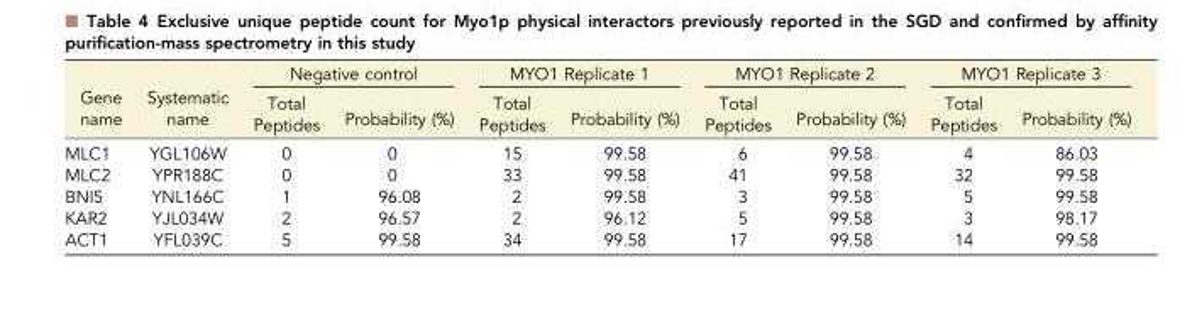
<table><thead><tr><td rowspan="2">Gene name</td><td rowspan="2">Systematic name</td><td colspan="2">Negative control</td><td colspan="2">MYO1 Replicate 1</td><td colspan="2">MYO1 Replicate 2</td><td colspan="2">MYO1 Replicate 3</td></tr><tr><td>Total Peptides</td><td>Probability (%)</td><td>Total Peptides</td><td>Probability (%)</td><td>Total Peptides</td><td>Probability (%)</td><td>Total Peptides</td><td>Probability (%)</td></tr></thead><tbody><tr><td>MLC1</td><td>YGL106W</td><td>0</td><td>0</td><td>15</td><td>99.58</td><td>6</td><td>99.58</td><td>4</td><td>86.03</td></tr><tr><td>MLC2</td><td>YPR188C</td><td>0</td><td>0</td><td>33</td><td>99.58</td><td>41</td><td>99.58</td><td>32</td><td>99.58</td></tr><tr><td>BNI5</td><td>YNL166C</td><td>1</td><td>96.08</td><td>2</td><td>99.58</td><td>3</td><td>99.58</td><td>5</td><td>99.58</td></tr><tr><td>KAR2</td><td>YJL034W</td><td>2</td><td>96.57</td><td>2</td><td>96.12</td><td>5</td><td>99.58</td><td>3</td><td>98.17</td></tr><tr><td>ACT1</td><td>YFL039C</td><td>5</td><td>99.58</td><td>34</td><td>99.58</td><td>17</td><td>99.58</td><td>14</td><td>99.58</td></tr></tbody></table>